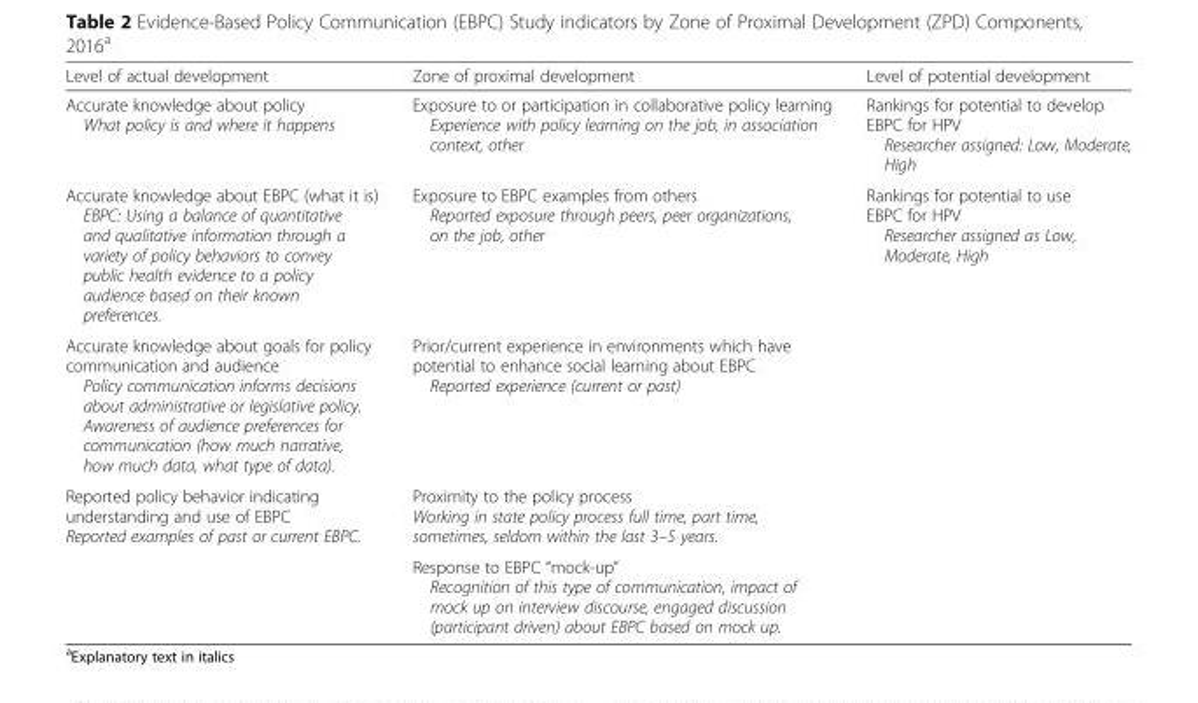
<table><thead><tr><td>Level of actual development</td><td>Zone of proximal development</td><td>Level of potential development</td></tr></thead><tbody><tr><td>Accurate knowledge about policy What policy is and where it happens</td><td>Exposure to or participation in collaborative policy learning Experience with policy learning on the job, in association context, other</td><td>Rankings for potential to develop EBPC for HPV Researcher assigned: Low, Moderate, High</td></tr><tr><td>Accurate knowledge about EBPC (what it is) EBPC: Using a balance of quantitative and qualitative information through a variety of policy behaviors to convey public health evidence to a policy audience based on their known preferences.</td><td>Exposure to EBPC examples from others Reported exposure through peers, peer organizations, on the job, other</td><td>Rankings for potential to use EBPC for HPV Researcher assigned as Low, Moderate, High</td></tr><tr><td>Accurate knowledge about goals for policy communication and audience Policy communication informs decisions about administrative or legislative policy. Awareness of audience preferences for communication (how much narrative, how much data, what type of data).</td><td>Prior/current experience in environments which have potential to enhance social learning about EBPC Reported experience (current or past)</td><td></td></tr><tr><td rowspan="2">Reported policy behavior indicating understanding and use of EBPC Reported examples of past or current EBPC.</td><td>Proximity to the policy process Working in state policy process full time, part time, sometimes, seldom within the last 3–5 years.</td><td></td></tr><tr><td>Response to EBPC “mock-up” Recognition of this type of communication, impact of mock up on interview discourse, engaged discussion (participant driven) about EBPC based on mock up.</td><td></td></tr></tbody></table>